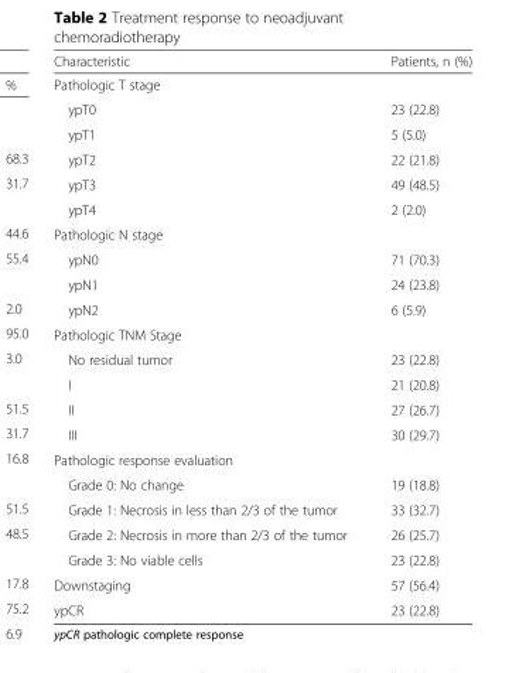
<table><thead><tr><td>Characteristic</td><td>Patients, n (%)</td></tr></thead><tbody><tr><td colspan="2">Pathologic T stage</td></tr><tr><td>ypT0</td><td>23 (22.8)</td></tr><tr><td>ypT1</td><td>5 (5.0)</td></tr><tr><td>ypT2</td><td>22 (21.8)</td></tr><tr><td>ypT3</td><td>49 (48.5)</td></tr><tr><td>ypT4</td><td>2 (2.0)</td></tr><tr><td colspan="2">Pathologic N stage</td></tr><tr><td>ypN0</td><td>71 (70.3)</td></tr><tr><td>ypN1</td><td>24 (23.8)</td></tr><tr><td>ypN2</td><td>6 (5.9)</td></tr><tr><td colspan="2">Pathologic TNM Stage</td></tr><tr><td>No residual tumor</td><td>23 (22.8)</td></tr><tr><td>I</td><td>21 (20.8)</td></tr><tr><td>II</td><td>27 (26.7)</td></tr><tr><td>III</td><td>30 (29.7)</td></tr><tr><td colspan="2">Pathologic response evaluation</td></tr><tr><td>Grade 0: No change</td><td>19 (18.8)</td></tr><tr><td>Grade 1: Necrosis in less than 2/3 of the tumor</td><td>33 (32.7)</td></tr><tr><td>Grade 2: Necrosis in more than 2/3 of the tumor</td><td>26 (25.7)</td></tr><tr><td>Grade 3: No viable cells</td><td>23 (22.8)</td></tr><tr><td>Downstaging</td><td>57 (56.4)</td></tr><tr><td>ypCR</td><td>23 (22.8)</td></tr></tbody></table>